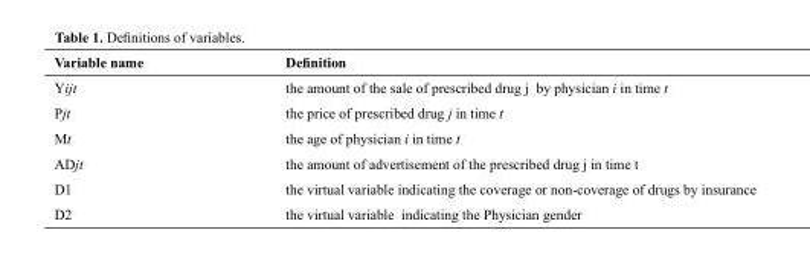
<table><thead><tr><td>Variable name</td><td>Definition</td></tr></thead><tbody><tr><td>Y<sub>ijt</sub></td><td>the amount of the sale of prescribed drug j by physician i in time t</td></tr><tr><td>P<sub>jt</sub></td><td>the price of prescribed drug j in time t</td></tr><tr><td>M<sub>t</sub></td><td>the age of physician i in time t</td></tr><tr><td>AD<sub>jt</sub></td><td>the amount of advertisement of the prescribed drug j in time t</td></tr><tr><td>D1</td><td>the virtual variable indicating the coverage or non-coverage of drugs by insurance</td></tr><tr><td>D2</td><td>the virtual variable indicating the Physician gender</td></tr></tbody></table>